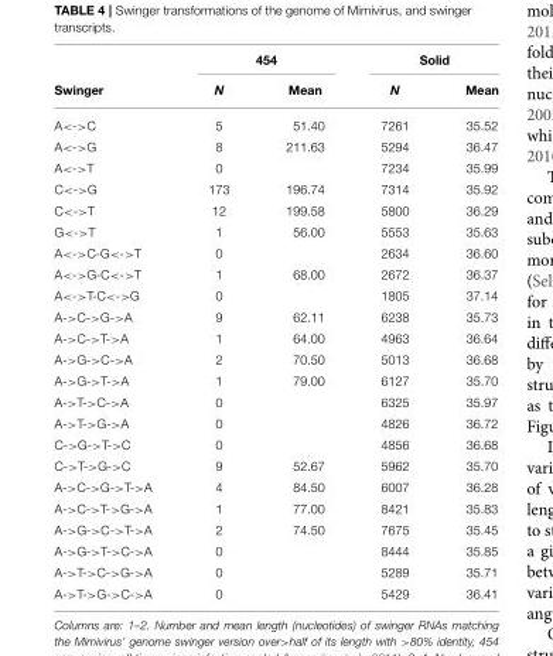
<table><thead><tr><td rowspan="2">Swinger</td><td colspan="2">454</td><td colspan="2">Solid</td></tr><tr><td>N</td><td>Mean</td><td>N</td><td>Mean</td></tr></thead><tbody><tr><td>A&lt;-&gt;C</td><td>5</td><td>51.40</td><td>7261</td><td>35.52</td></tr><tr><td>A&lt;-&gt;G</td><td>8</td><td>211.63</td><td>5294</td><td>36.47</td></tr><tr><td>A&lt;-&gt;T</td><td>0</td><td></td><td>7234</td><td>35.99</td></tr><tr><td>C&lt;-&gt;G</td><td>173</td><td>196.74</td><td>7314</td><td>35.92</td></tr><tr><td>C&lt;-&gt;T</td><td>12</td><td>199.58</td><td>5800</td><td>36.29</td></tr><tr><td>G&lt;-&gt;T</td><td>1</td><td>56.00</td><td>5553</td><td>35.63</td></tr><tr><td>A&lt;-&gt;C-G&lt;-&gt;T</td><td>0</td><td></td><td>2634</td><td>36.60</td></tr><tr><td>A&lt;-&gt;G-C&lt;-&gt;T</td><td>1</td><td>68.00</td><td>2672</td><td>36.37</td></tr><tr><td>A&lt;-&gt;T-C&lt;-&gt;G</td><td>0</td><td></td><td>1805</td><td>37.14</td></tr><tr><td>A-&gt;C-&gt;G-&gt;A</td><td>9</td><td>62.11</td><td>6238</td><td>35.73</td></tr><tr><td>A-&gt;C-&gt;T-&gt;A</td><td>1</td><td>64.00</td><td>4963</td><td>36.64</td></tr><tr><td>A-&gt;G-&gt;C-&gt;A</td><td>2</td><td>70.50</td><td>5013</td><td>36.68</td></tr><tr><td>A-&gt;G-&gt;T-&gt;A</td><td>1</td><td>79.00</td><td>6127</td><td>35.70</td></tr><tr><td>A-&gt;T-&gt;C-&gt;A</td><td>0</td><td></td><td>6325</td><td>35.97</td></tr><tr><td>A-&gt;T-&gt;G-&gt;A</td><td>0</td><td></td><td>4826</td><td>36.72</td></tr><tr><td>C-&gt;G-&gt;T-&gt;C</td><td>0</td><td></td><td>4856</td><td>36.68</td></tr><tr><td>C-&gt;T-&gt;G-&gt;C</td><td>9</td><td>52.67</td><td>5962</td><td>35.70</td></tr><tr><td>A-&gt;C-&gt;G-&gt;T-&gt;A</td><td>4</td><td>84.50</td><td>6007</td><td>36.28</td></tr><tr><td>A-&gt;C-&gt;T-&gt;G-&gt;A</td><td>1</td><td>77.00</td><td>8421</td><td>35.83</td></tr><tr><td>A-&gt;G-&gt;C-&gt;T-&gt;A</td><td>2</td><td>74.50</td><td>7675</td><td>35.45</td></tr><tr><td>A-&gt;G-&gt;T-&gt;C-&gt;A</td><td>0</td><td></td><td>8444</td><td>35.85</td></tr><tr><td>A-&gt;T-&gt;C-&gt;G-&gt;A</td><td>0</td><td></td><td>5289</td><td>35.71</td></tr><tr><td>A-&gt;T-&gt;G-&gt;C-&gt;A</td><td>0</td><td></td><td>5429</td><td>36.41</td></tr></tbody></table>